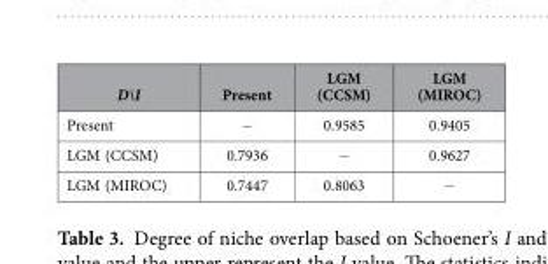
<table><thead><tr><td>D\I</td><td>Present</td><td>LGM (CCSM)</td><td>LGM (MIROC)</td></tr></thead><tbody><tr><td>Present</td><td>−</td><td>0.9585</td><td>0.9405</td></tr><tr><td>LGM (CCSM)</td><td>0.7936</td><td>−</td><td>0.9627</td></tr><tr><td>LGM (MIROC)</td><td>0.7447</td><td>0.8063</td><td>−</td></tr></tbody></table>